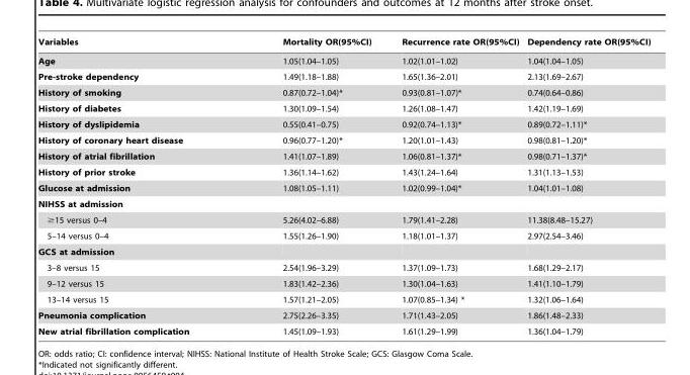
<table><thead><tr><td>Variables</td><td>Mortality OR(95%CI)</td><td>Recurrence rate OR(95%CI)</td><td>Dependency rate OR(95%CI)</td></tr></thead><tbody><tr><td>Age</td><td>1.05(1.04–1.05)</td><td>1.02(1.01–1.02)</td><td>1.04(1.04–1.05)</td></tr><tr><td>Pre-stroke dependency</td><td>1.49(1.18–1.88)</td><td>1.65(1.36–2.01)</td><td>2.13(1.69–2.67)</td></tr><tr><td>History of smoking</td><td>0.87(0.72–1.04)*</td><td>0.93(0.81–1.07)*</td><td>0.74(0.64–0.86)</td></tr><tr><td>History of diabetes</td><td>1.30(1.09–1.54)</td><td>1.26(1.08–1.47)</td><td>1.42(1.19–1.69)</td></tr><tr><td>History of dyslipidemia</td><td>0.55(0.41–0.75)</td><td>0.92(0.74–1.13)*</td><td>0.89(0.72–1.11)*</td></tr><tr><td>History of coronary heart disease</td><td>0.96(0.77–1.20)*</td><td>1.20(1.01–1.43)</td><td>0.98(0.81–1.20)*</td></tr><tr><td>History of atrial fibrillation</td><td>1.41(1.07–1.89)</td><td>1.06(0.81–1.37)*</td><td>0.98(0.71–1.37)*</td></tr><tr><td>History of prior stroke</td><td>1.36(1.14–1.62)</td><td>1.43(1.24–1.64)</td><td>1.31(1.13–1.53)</td></tr><tr><td>Glucose at admission</td><td>1.08(1.05–1.11)</td><td>1.02(0.99–1.04)*</td><td>1.04(1.01–1.08)</td></tr><tr><td colspan="4">NIHSS at admission</td></tr><tr><td>≥15 versus 0–4</td><td>5.26(4.02–6.88)</td><td>1.79(1.41–2.28)</td><td>11.38(8.48–15.27)</td></tr><tr><td>5–14 versus 0–4</td><td>1.55(1.26–1.90)</td><td>1.18(1.01–1.37)</td><td>2.97(2.54–3.46)</td></tr><tr><td colspan="4">GCS at admission</td></tr><tr><td>3–8 versus 15</td><td>2.54(1.96–3.29)</td><td>1.37(1.09–1.73)</td><td>1.68(1.29–2.17)</td></tr><tr><td>9–12 versus 15</td><td>1.83(1.42–2.36)</td><td>1.30(1.04–1.63)</td><td>1.41(1.10–1.79)</td></tr><tr><td>13–14 versus 15</td><td>1.57(1.21–2.05)</td><td>1.07(0.85–1.34) *</td><td>1.32(1.06–1.64)</td></tr><tr><td>Pneumonia complication</td><td>2.75(2.26–3.35)</td><td>1.71(1.43–2.05)</td><td>1.86(1.48–2.33)</td></tr><tr><td>New atrial fibrillation complication</td><td>1.45(1.09–1.93)</td><td>1.61(1.29–1.99)</td><td>1.36(1.04–1.79)</td></tr></tbody></table>